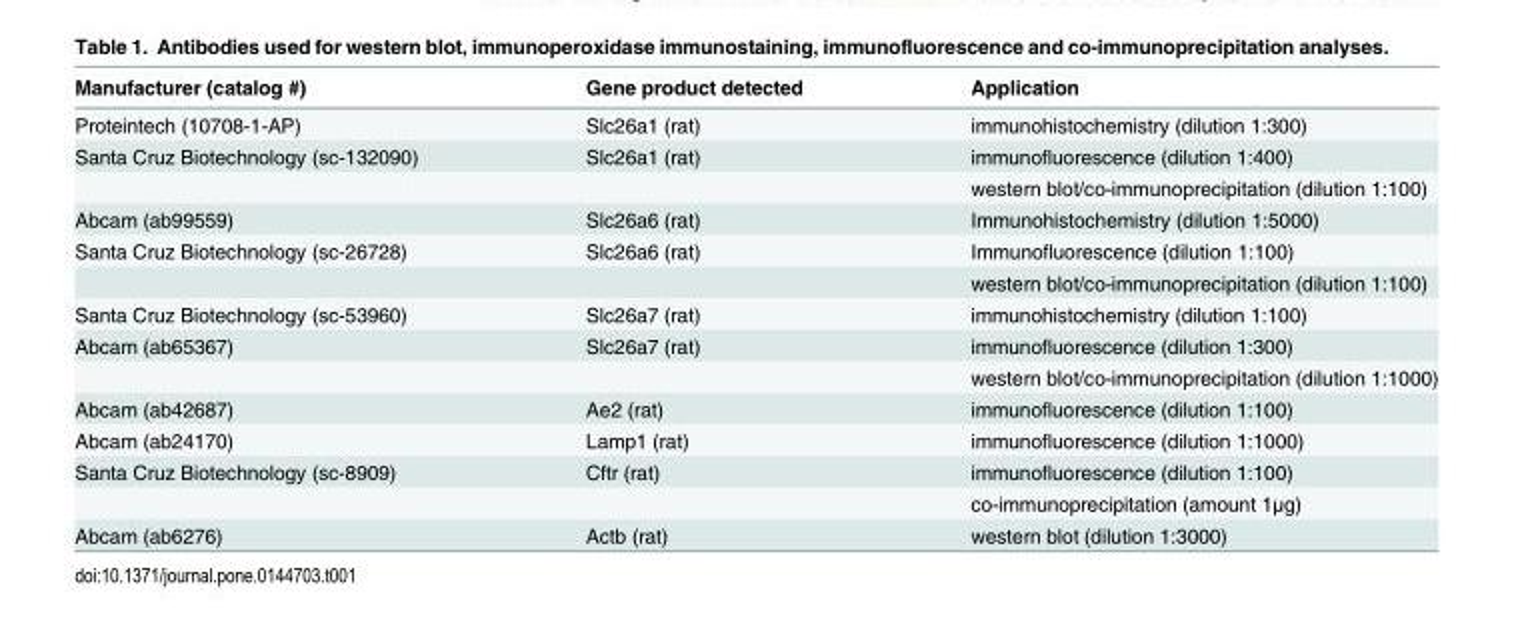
<table><thead><tr><td>Manufacturer (catalog #)</td><td>Gene product detected</td><td>Application</td></tr></thead><tbody><tr><td>Proteintech (10708-1-AP)</td><td>Slc26a1 (rat)</td><td>immunohistochemistry (dilution 1:300)</td></tr><tr><td rowspan="2">Santa Cruz Biotechnology (sc-132090)</td><td>Slc26a1 (rat)</td><td>immunofluorescence (dilution 1:400)</td></tr><tr><td></td><td>western blot/co-immunoprecipitation (dilution 1:100)</td></tr><tr><td>Abcam (ab99559)</td><td>Slc26a6 (rat)</td><td>Immunohistochemistry (dilution 1:5000)</td></tr><tr><td rowspan="2">Santa Cruz Biotechnology (sc-26728)</td><td>Slc26a6 (rat)</td><td>Immunofluorescence (dilution 1:100)</td></tr><tr><td></td><td>western blot/co-immunoprecipitation (dilution 1:100)</td></tr><tr><td>Santa Cruz Biotechnology (sc-53960)</td><td>Slc26a7 (rat)</td><td>immunohistochemistry (dilution 1:100)</td></tr><tr><td rowspan="2">Abcam (ab65367)</td><td>Slc26a7 (rat)</td><td>immunofluorescence (dilution 1:300)</td></tr><tr><td></td><td>western blot/co-immunoprecipitation (dilution 1:1000)</td></tr><tr><td>Abcam (ab42687)</td><td>Ae2 (rat)</td><td>immunofluorescence (dilution 1:100)</td></tr><tr><td>Abcam (ab24170)</td><td>Lamp1 (rat)</td><td>immunofluorescence (dilution 1:1000)</td></tr><tr><td rowspan="2">Santa Cruz Biotechnology (sc-8909)</td><td>Cftr (rat)</td><td>immunofluorescence (dilution 1:100)</td></tr><tr><td></td><td>co-immunoprecipitation (amount 1μg)</td></tr><tr><td>Abcam (ab6276)</td><td>Actb (rat)</td><td>western blot (dilution 1:3000)</td></tr></tbody></table>